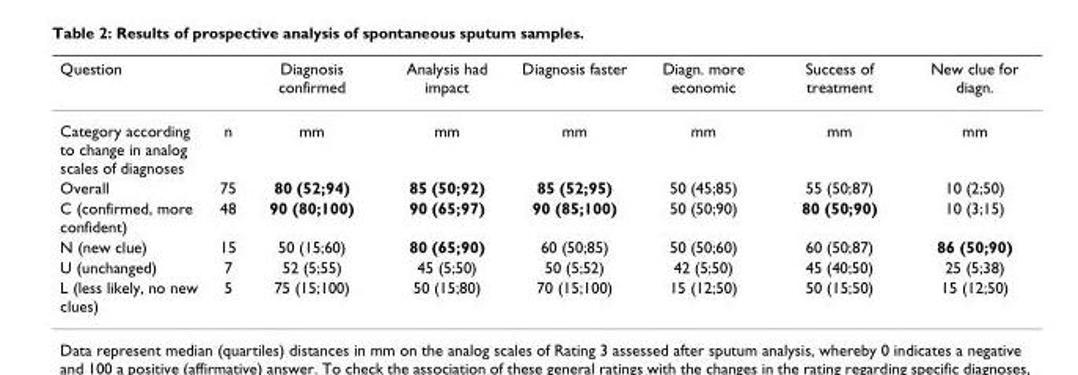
<table><thead><tr><td>Question</td><td></td><td>Diagnosis confirmed</td><td>Analysis had impact</td><td>Diagnosis faster</td><td>Diagn. more economic</td><td>Success of treatment</td><td>New clue for diagn.</td></tr></thead><tbody><tr><td>Category according to change in analog scales of diagnoses</td><td>n</td><td>mm</td><td>mm</td><td>mm</td><td>mm</td><td>mm</td><td>mm</td></tr><tr><td>Overall</td><td>75</td><td>80 (52;94)</td><td>85 (50;92)</td><td>85 (52;95)</td><td>50 (45;85)</td><td>55 (50;87)</td><td>10 (2;50)</td></tr><tr><td>C (confirmed, more confident)</td><td>48</td><td>90 (80;100)</td><td>90 (65;97)</td><td>90 (85;100)</td><td>50 (50;90)</td><td>80 (50;90)</td><td>10 (3;15)</td></tr><tr><td>N (new clue)</td><td>15</td><td>50 (15;60)</td><td>80 (65;90)</td><td>60 (50;85)</td><td>50 (50;60)</td><td>60 (50;87)</td><td>86 (50;90)</td></tr><tr><td>U (unchanged)</td><td>7</td><td>52 (5;55)</td><td>45 (5;50)</td><td>50 (5;52)</td><td>42 (5;50)</td><td>45 (40;50)</td><td>25 (5;38)</td></tr><tr><td>L (less likely, no new clues)</td><td>5</td><td>75 (15;100)</td><td>50 (15;80)</td><td>70 (15;100)</td><td>15 (12;50)</td><td>50 (15;50)</td><td>15 (12;50)</td></tr></tbody></table>